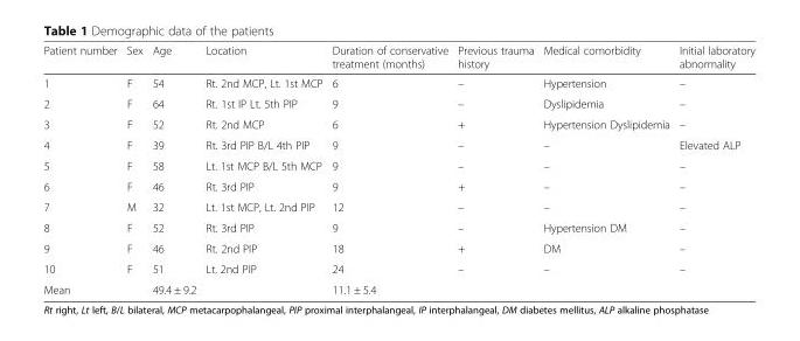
<table><thead><tr><td>Patient number</td><td>Sex</td><td>Age</td><td>Location</td><td>Duration of conservative treatment (months)</td><td>Previous trauma history</td><td>Medical comorbidity</td><td>Initial laboratory abnormality</td></tr></thead><tbody><tr><td>1</td><td>F</td><td>54</td><td>Rt. 2nd MCP, Lt. 1st MCP</td><td>6</td><td>–</td><td>Hypertension</td><td>–</td></tr><tr><td>2</td><td>F</td><td>64</td><td>Rt. 1st IP Lt. 5th PIP</td><td>9</td><td>–</td><td>Dyslipidemia</td><td>–</td></tr><tr><td>3</td><td>F</td><td>52</td><td>Rt. 2nd MCP</td><td>6</td><td>+</td><td>Hypertension Dyslipidemia</td><td>–</td></tr><tr><td>4</td><td>F</td><td>39</td><td>Rt. 3rd PIP B/L 4th PIP</td><td>9</td><td>–</td><td>–</td><td>Elevated ALP</td></tr><tr><td>5</td><td>F</td><td>58</td><td>Lt. 1st MCP B/L 5th MCP</td><td>9</td><td>–</td><td>–</td><td>–</td></tr><tr><td>6</td><td>F</td><td>46</td><td>Rt. 3rd PIP</td><td>9</td><td>+</td><td>–</td><td>–</td></tr><tr><td>7</td><td>M</td><td>32</td><td>Lt. 1st MCP, Lt. 2nd PIP</td><td>12</td><td>–</td><td>–</td><td>–</td></tr><tr><td>8</td><td>F</td><td>52</td><td>Rt. 3rd PIP</td><td>9</td><td>–</td><td>Hypertension DM</td><td>–</td></tr><tr><td>9</td><td>F</td><td>46</td><td>Rt. 2nd PIP</td><td>18</td><td>+</td><td>DM</td><td>–</td></tr><tr><td>10</td><td>F</td><td>51</td><td>Lt. 2nd PIP</td><td>24</td><td>–</td><td>–</td><td>–</td></tr><tr><td>Mean</td><td></td><td>49.4 ± 9.2</td><td></td><td>11.1 ± 5.4</td><td></td><td></td><td></td></tr></tbody></table>